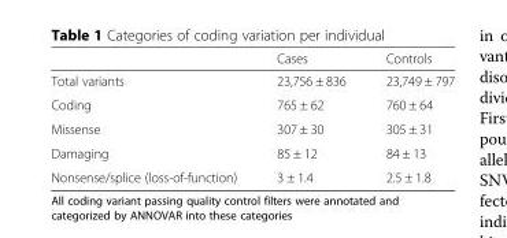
<table><thead><tr><td></td><td>Cases</td><td>Controls</td></tr></thead><tbody><tr><td>Total variants</td><td>23,756 ± 836</td><td>23,749 ± 797</td></tr><tr><td>Coding</td><td>765 ± 62</td><td>760 ± 64</td></tr><tr><td>Missense</td><td>307 ± 30</td><td>305 ± 31</td></tr><tr><td>Damaging</td><td>85 ± 12</td><td>84 ± 13</td></tr><tr><td>Nonsense/splice (loss-of-function)</td><td>3 ± 1.4</td><td>2.5 ± 1.8</td></tr></tbody></table>